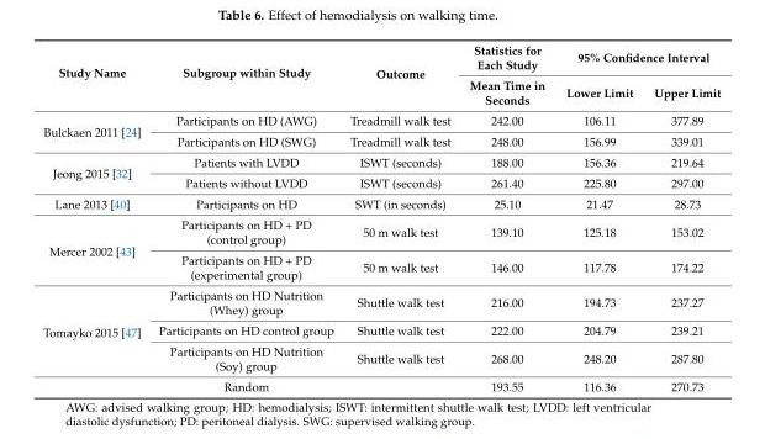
<table><thead><tr><td rowspan="2">Study Name</td><td rowspan="2">Subgroup within Study</td><td rowspan="2">Outcome</td><td rowspan="2">Statistics for Each Study Mean Time in Seconds</td><td colspan="2">95% Confidence Interval</td></tr><tr><td>Lower Limit</td><td>Upper Limit</td></tr></thead><tbody><tr><td rowspan="2">Bulckaen 2011 [24]</td><td>Participants on HD (AWG)</td><td>Treadmill walk test</td><td>242.00</td><td>106.11</td><td>377.89</td></tr><tr><td>Participants on HD (SWG)</td><td>Treadmill walk test</td><td>248.00</td><td>156.99</td><td>339.01</td></tr><tr><td rowspan="2">Jeong 2015 [32]</td><td>Patients with LVDD</td><td>ISWT (seconds)</td><td>188.00</td><td>156.36</td><td>219.64</td></tr><tr><td>Patients without LVDD</td><td>ISWT (seconds)</td><td>261.40</td><td>225.80</td><td>297.00</td></tr><tr><td>Lane 2013 [40]</td><td>Participants on HD</td><td>SWT (in seconds)</td><td>25.10</td><td>21.47</td><td>28.73</td></tr><tr><td rowspan="2">Mercer 2002 [43]</td><td>Participants on HD + PD (control group)</td><td>50 m walk test</td><td>139.10</td><td>125.18</td><td>153.02</td></tr><tr><td>Participants on HD + PD (experimental group)</td><td>50 m walk test</td><td>146.00</td><td>117.78</td><td>174.22</td></tr><tr><td rowspan="4">Tomayko 2015 [47]</td><td>Participants on HD Nutrition (Whey) group</td><td>Shuttle walk test</td><td>216.00</td><td>194.73</td><td>237.27</td></tr><tr><td>Participants on HD control group</td><td>Shuttle walk test</td><td>222.00</td><td>204.79</td><td>239.21</td></tr><tr><td>Participants on HD Nutrition (Soy) group</td><td>Shuttle walk test</td><td>268.00</td><td>248.20</td><td>287.80</td></tr><tr><td>Random</td><td></td><td>193.55</td><td>116.36</td><td>270.73</td></tr></tbody></table>